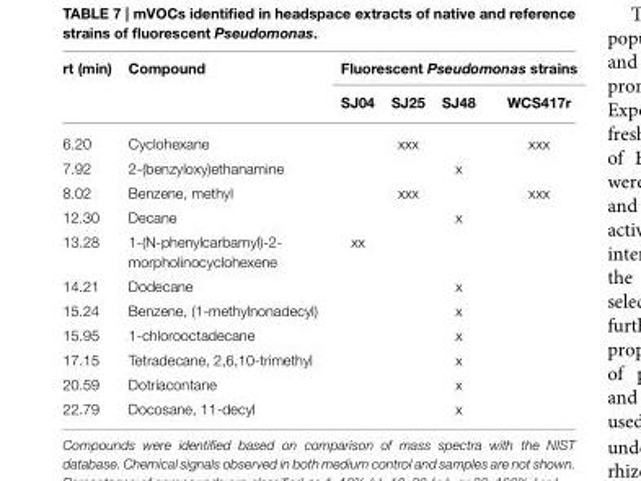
<table><thead><tr><td rowspan="2">rt (min)</td><td rowspan="2">Compound</td><td colspan="4">Fluorescent Pseudomonas strains</td></tr><tr><td>SJ04</td><td>SJ25</td><td>SJ48</td><td>WCS417r</td></tr></thead><tbody><tr><td>6.20</td><td>Cyclohexane</td><td></td><td>xxx</td><td></td><td>xxx</td></tr><tr><td>7.92</td><td>2-(benzyloxy)ethanamine</td><td></td><td></td><td>x</td><td></td></tr><tr><td>8.02</td><td>Benzene, methyl</td><td></td><td>xxx</td><td></td><td>xxx</td></tr><tr><td>12.30</td><td>Decane</td><td></td><td></td><td>x</td><td></td></tr><tr><td>13.28</td><td>1-(N-phenylcarbamyl)-2- morpholinocyclohexene</td><td>xx</td><td></td><td></td><td></td></tr><tr><td>14.21</td><td>Dodecane</td><td></td><td></td><td>x</td><td></td></tr><tr><td>15.24</td><td>Benzene, (1-methylnonadecyl)</td><td></td><td></td><td>x</td><td></td></tr><tr><td>15.95</td><td>1-chlorooctadecane</td><td></td><td></td><td>x</td><td></td></tr><tr><td>17.15</td><td>Tetradecane, 2,6,10-trimethyl</td><td></td><td></td><td>x</td><td></td></tr><tr><td>20.59</td><td>Dotriacontane</td><td></td><td></td><td>x</td><td></td></tr><tr><td>22.79</td><td>Docosane, 11-decyl</td><td></td><td></td><td>x</td><td></td></tr></tbody></table>